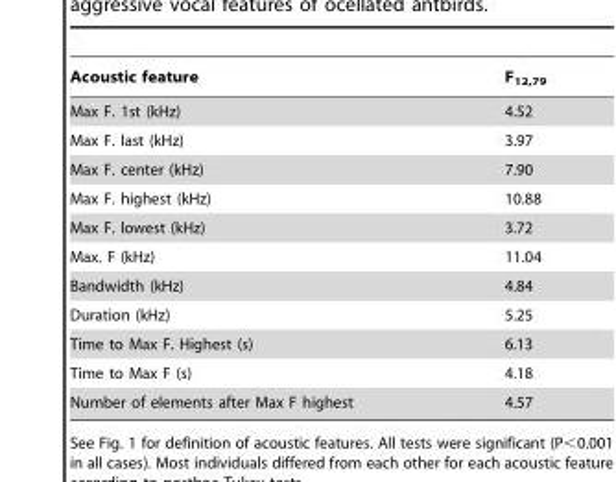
<table><thead><tr><td>Acoustic feature</td><td>F<sub>12,79</sub></td></tr></thead><tbody><tr><td>Max F. 1st (kHz)</td><td>4.52</td></tr><tr><td>Max F. last (kHz)</td><td>3.97</td></tr><tr><td>Max F. center (kHz)</td><td>7.90</td></tr><tr><td>Max F. highest (kHz)</td><td>10.88</td></tr><tr><td>Max F. lowest (kHz)</td><td>3.72</td></tr><tr><td>Max. F (kHz)</td><td>11.04</td></tr><tr><td>Bandwidth (kHz)</td><td>4.84</td></tr><tr><td>Duration (kHz)</td><td>5.25</td></tr><tr><td>Time to Max F. Highest (s)</td><td>6.13</td></tr><tr><td>Time to Max F (s)</td><td>4.18</td></tr><tr><td>Number of elements after Max F highest</td><td>4.57</td></tr></tbody></table>